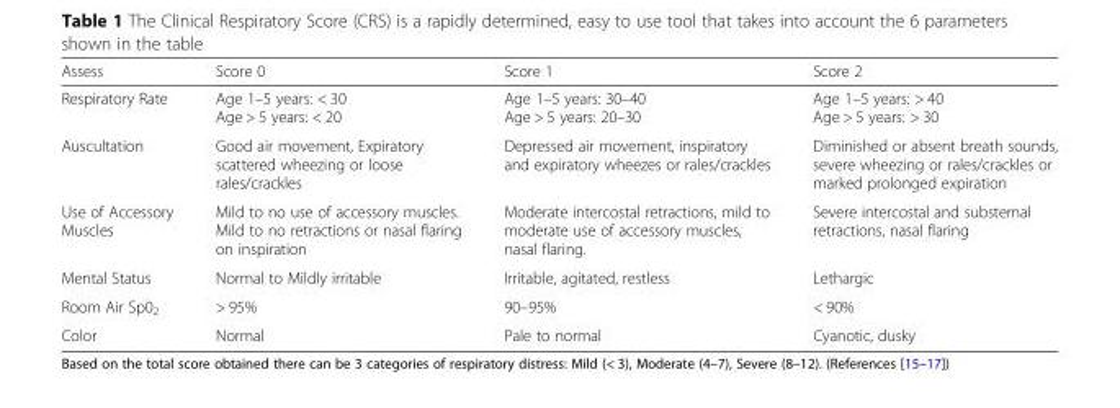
<table><thead><tr><td>Assess</td><td>Score 0</td><td>Score 1</td><td>Score 2</td></tr></thead><tbody><tr><td>Respiratory Rate</td><td>Age 1–5 years: &lt; 30 Age &gt; 5 years: &lt; 20</td><td>Age 1–5 years: 30–40 Age &gt; 5 years: 20–30</td><td>Age 1–5 years: &gt; 40 Age &gt; 5 years: &gt; 30</td></tr><tr><td>Auscultation</td><td>Good air movement, Expiratory scattered wheezing or loose rales/crackles</td><td>Depressed air movement, inspiratory and expiratory wheezes or rales/crackles</td><td>Diminished or absent breath sounds, severe wheezing or rales/crackles or marked prolonged expiration</td></tr><tr><td>Use of Accessory Muscles</td><td>Mild to no use of accessory muscles. Mild to no retractions or nasal flaring on inspiration</td><td>Moderate intercostal retractions, mild to moderate use of accessory muscles, nasal flaring.</td><td>Severe intercostal and substernal retractions, nasal flaring</td></tr><tr><td>Mental Status</td><td>Normal to Mildly irritable</td><td>Irritable, agitated, restless</td><td>Lethargic</td></tr><tr><td>Room Air Sp0<sub>2</sub></td><td>&gt; 95%</td><td>90–95%</td><td>&lt; 90%</td></tr><tr><td>Color</td><td>Normal</td><td>Pale to normal</td><td>Cyanotic, dusky</td></tr></tbody></table>